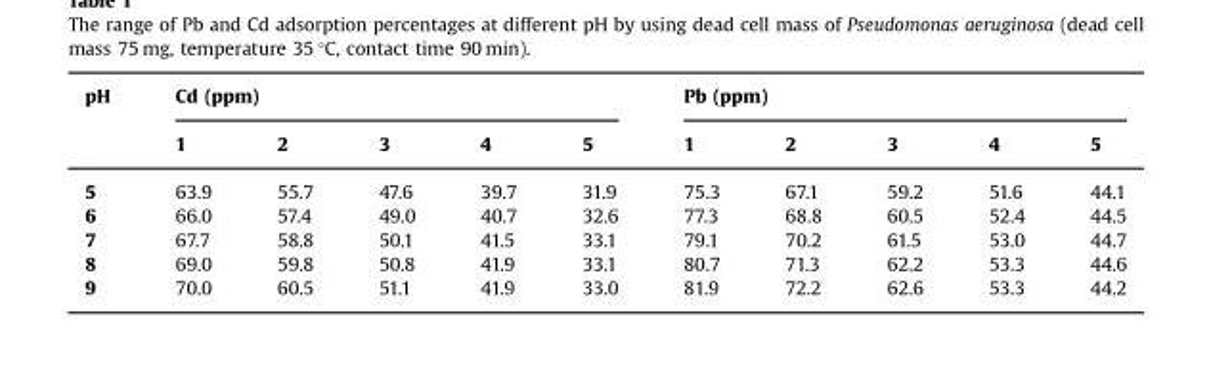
<table><thead><tr><td rowspan="2">pH</td><td colspan="5">Cd (ppm)</td><td colspan="5">Pb (ppm)</td></tr><tr><td>1</td><td>2</td><td>3</td><td>4</td><td>5</td><td>1</td><td>2</td><td>3</td><td>4</td><td>5</td></tr></thead><tbody><tr><td>5</td><td>63.9</td><td>55.7</td><td>47.6</td><td>39.7</td><td>31.9</td><td>75.3</td><td>67.1</td><td>59.2</td><td>51.6</td><td>44.1</td></tr><tr><td>6</td><td>66.0</td><td>57.4</td><td>49.0</td><td>40.7</td><td>32.6</td><td>77.3</td><td>68.8</td><td>60.5</td><td>52.4</td><td>44.5</td></tr><tr><td>7</td><td>67.7</td><td>58.8</td><td>50.1</td><td>41.5</td><td>33.1</td><td>79.1</td><td>70.2</td><td>61.5</td><td>53.0</td><td>44.7</td></tr><tr><td>8</td><td>69.0</td><td>59.8</td><td>50.8</td><td>41.9</td><td>33.1</td><td>80.7</td><td>71.3</td><td>62.2</td><td>53.3</td><td>44.6</td></tr><tr><td>9</td><td>70.0</td><td>60.5</td><td>51.1</td><td>41.9</td><td>33.0</td><td>81.9</td><td>72.2</td><td>62.6</td><td>53.3</td><td>44.2</td></tr></tbody></table>